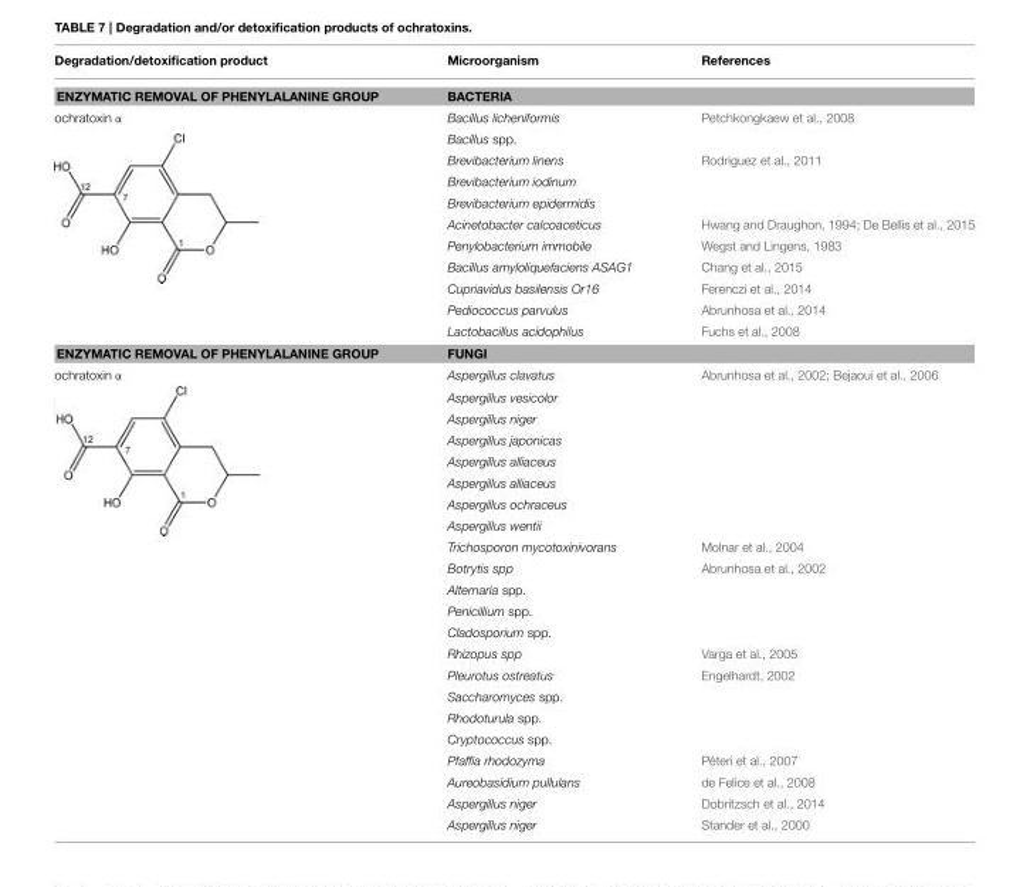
<table><thead><tr><td>Degradation/detoxification product</td><td>Microorganism</td><td>References</td></tr></thead><tbody><tr><td>ENZYMATIC REMOVAL OF PHENYLALANINE GROUP</td><td>BACTERIA</td><td></td></tr><tr><td rowspan="11">ochratoxin α</td><td>Bacillus licheniformis</td><td>Petchkongkaew et al., 2008</td></tr><tr><td>Bacillus spp.</td><td></td></tr><tr><td>Brevibacterium linens</td><td>Rodriguez et al., 2011</td></tr><tr><td>Brevibacterium iodinum</td><td></td></tr><tr><td>Brevibacterium epidermidis</td><td></td></tr><tr><td>Acinetobacter calcoaceticus</td><td>Hwang and Draughon, 1994; De Bellis et al., 2015</td></tr><tr><td>Penylobacterium immobile</td><td>Wegst and Lingens, 1983</td></tr><tr><td>Bacillus amyloliquefaciens ASAG1</td><td>Chang et al., 2015</td></tr><tr><td>Cupriavidus basilensis Or16</td><td>Ferenczi et al., 2014</td></tr><tr><td>Pediococcus parvulus</td><td>Abrunhosa et al., 2014</td></tr><tr><td>Lactobacillus acidophilus</td><td>Fuchs et al., 2008</td></tr><tr><td>ENZYMATIC REMOVAL OF PHENYLALANINE GROUP</td><td>FUNGI</td><td></td></tr><tr><td rowspan="22">ochratoxin α</td><td>Aspergillus clavatus</td><td>Abrunhosa et al., 2002; Bejaoui et al., 2006</td></tr><tr><td>Aspergillus vesicolor</td><td></td></tr><tr><td>Aspergillus niger</td><td></td></tr><tr><td>Aspergillus japonicas</td><td></td></tr><tr><td>Aspergillus alliaceus</td><td></td></tr><tr><td>Aspergillus alliaceus</td><td></td></tr><tr><td>Aspergillus ochraceus</td><td></td></tr><tr><td>Aspergillus wentii</td><td></td></tr><tr><td>Trichosporon mycotoxinivorans</td><td>Molnar et al., 2004</td></tr><tr><td>Botrytis spp</td><td>Abrunhosa et al., 2002</td></tr><tr><td>Alternaria spp.</td><td></td></tr><tr><td>Penicillium spp.</td><td></td></tr><tr><td>Cladosporium spp.</td><td></td></tr><tr><td>Rhizopus spp</td><td>Varga et al., 2005</td></tr><tr><td>Pleurotus ostreatus</td><td>Engelhardt, 2002</td></tr><tr><td>Saccharomyces spp.</td><td></td></tr><tr><td>Rhodoturula spp.</td><td></td></tr><tr><td>Cryptococcus spp.</td><td></td></tr><tr><td>Pfaffia rhodozyma</td><td>Péteri et al., 2007</td></tr><tr><td>Aureobasidium pullulans</td><td>de Felice et al., 2008</td></tr><tr><td>Aspergillus niger</td><td>Dobritzsch et al., 2014</td></tr><tr><td>Aspergillus niger</td><td>Stander et al., 2000</td></tr></tbody></table>